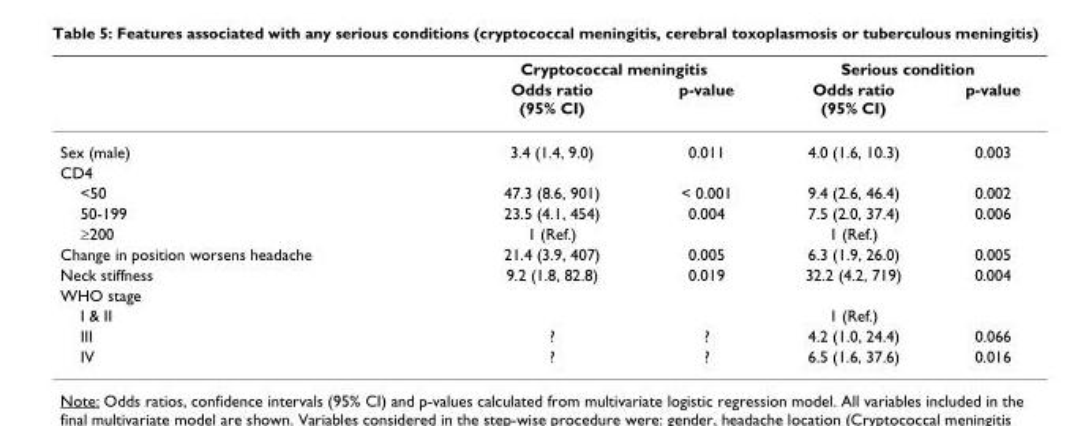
<table><thead><tr><td rowspan="2"></td><td colspan="2">Cryptococcal meningitis</td><td colspan="2">Serious condition</td></tr><tr><td>Odds ratio (95% CI)</td><td>p-value</td><td>Odds ratio (95% CI)</td><td>p-value</td></tr></thead><tbody><tr><td>Sex (male)</td><td>3.4 (1.4, 9.0)</td><td>0.011</td><td>4.0 (1.6, 10.3)</td><td>0.003</td></tr><tr><td colspan="5">CD4</td></tr><tr><td>&lt;50</td><td>47.3 (8.6, 901)</td><td>&lt; 0.001</td><td>9.4 (2.6, 46.4)</td><td>0.002</td></tr><tr><td>50-199</td><td>23.5 (4.1, 454)</td><td>0.004</td><td>7.5 (2.0, 37.4)</td><td>0.006</td></tr><tr><td>≥200</td><td>1 (Ref.)</td><td></td><td>1 (Ref.)</td><td></td></tr><tr><td>Change in position worsens headache</td><td>21.4 (3.9, 407)</td><td>0.005</td><td>6.3 (1.9, 26.0)</td><td>0.005</td></tr><tr><td>Neck stiffness</td><td>9.2 (1.8, 82.8)</td><td>0.019</td><td>32.2 (4.2, 719)</td><td>0.004</td></tr><tr><td colspan="5">WHO stage</td></tr><tr><td>I &amp; II</td><td></td><td></td><td>1 (Ref.)</td><td></td></tr><tr><td>III</td><td>?</td><td>?</td><td>4.2 (1.0, 24.4)</td><td>0.066</td></tr><tr><td>IV</td><td>?</td><td>?</td><td>6.5 (1.6, 37.6)</td><td>0.016</td></tr></tbody></table>